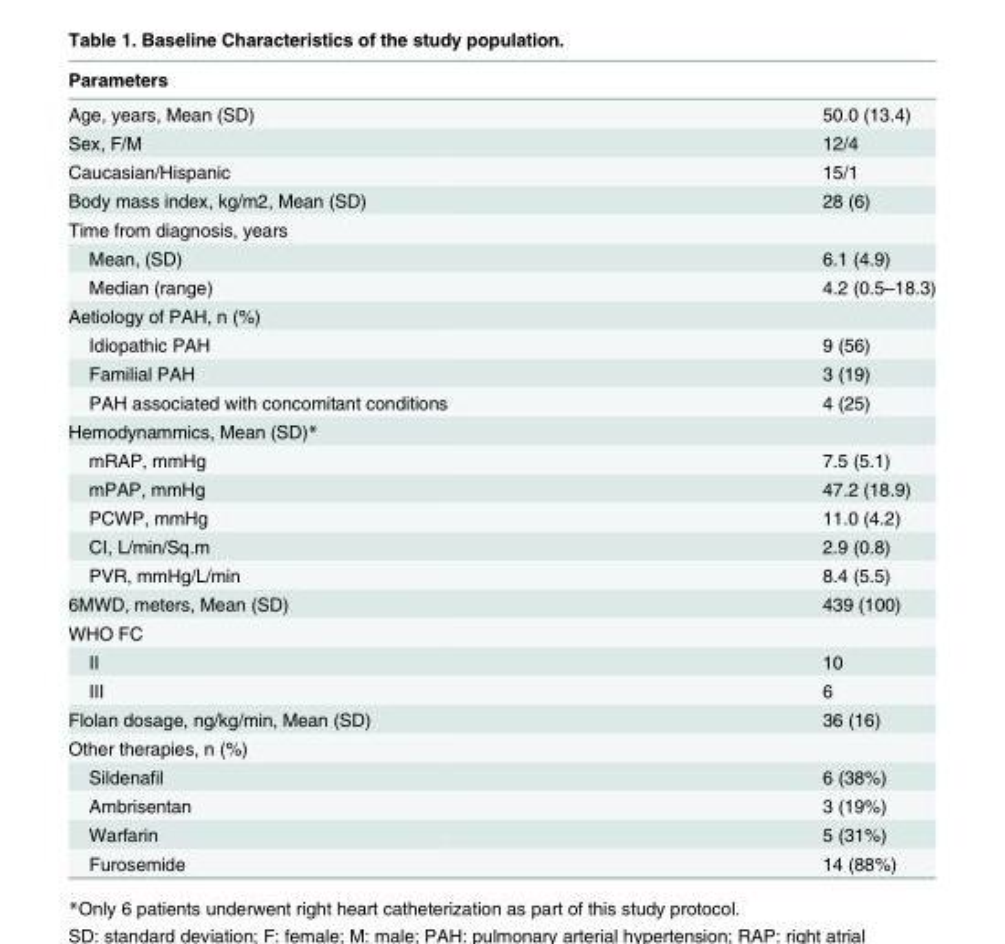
<table><thead><tr><td>Parameters</td><td></td></tr></thead><tbody><tr><td>Age, years, Mean (SD)</td><td>50.0 (13.4)</td></tr><tr><td>Sex, F/M</td><td>12/4</td></tr><tr><td>Caucasian/Hispanic</td><td>15/1</td></tr><tr><td>Body mass index, kg/m2, Mean (SD)</td><td>28 (6)</td></tr><tr><td colspan="2">Time from diagnosis, years</td></tr><tr><td>Mean, (SD)</td><td>6.1 (4.9)</td></tr><tr><td>Median (range)</td><td>4.2 (0.5–18.3)</td></tr><tr><td colspan="2">Aetiology of PAH, n (%)</td></tr><tr><td>Idiopathic PAH</td><td>9 (56)</td></tr><tr><td>Familial PAH</td><td>3 (19)</td></tr><tr><td>PAH associated with concomitant conditions</td><td>4 (25)</td></tr><tr><td colspan="2">Hemodynammics, Mean (SD)*</td></tr><tr><td>mRAP, mmHg</td><td>7.5 (5.1)</td></tr><tr><td>mPAP, mmHg</td><td>47.2 (18.9)</td></tr><tr><td>PCWP, mmHg</td><td>11.0 (4.2)</td></tr><tr><td>CI, L/min/Sq.m</td><td>2.9 (0.8)</td></tr><tr><td>PVR, mmHg/L/min</td><td>8.4 (5.5)</td></tr><tr><td>6MWD, meters, Mean (SD)</td><td>439 (100)</td></tr><tr><td colspan="2">WHO FC</td></tr><tr><td>II</td><td>10</td></tr><tr><td>III</td><td>6</td></tr><tr><td>Flolan dosage, ng/kg/min, Mean (SD)</td><td>36 (16)</td></tr><tr><td colspan="2">Other therapies, n (%)</td></tr><tr><td>Sildenafil</td><td>6 (38%)</td></tr><tr><td>Ambrisentan</td><td>3 (19%)</td></tr><tr><td>Warfarin</td><td>5 (31%)</td></tr><tr><td>Furosemide</td><td>14 (88%)</td></tr></tbody></table>